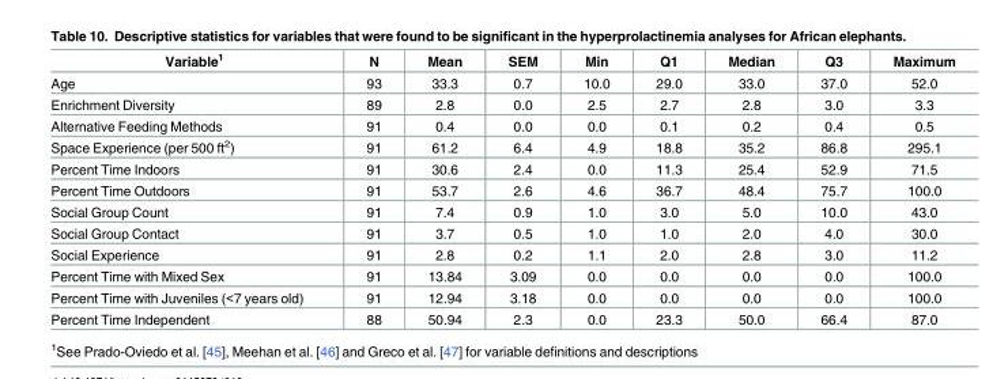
<table><thead><tr><td>Variable<sup>1</sup></td><td>N</td><td>Mean</td><td>SEM</td><td>Min</td><td>Q1</td><td>Median</td><td>Q3</td><td>Maximum</td></tr></thead><tbody><tr><td>Age</td><td>93</td><td>33.3</td><td>0.7</td><td>10.0</td><td>29.0</td><td>33.0</td><td>37.0</td><td>52.0</td></tr><tr><td>Enrichment Diversity</td><td>89</td><td>2.8</td><td>0.0</td><td>2.5</td><td>2.7</td><td>2.8</td><td>3.0</td><td>3.3</td></tr><tr><td>Alternative Feeding Methods</td><td>91</td><td>0.4</td><td>0.0</td><td>0.0</td><td>0.1</td><td>0.2</td><td>0.4</td><td>0.5</td></tr><tr><td>Space Experience (per 500 ft<sup>2</sup>)</td><td>91</td><td>61.2</td><td>6.4</td><td>4.9</td><td>18.8</td><td>35.2</td><td>86.8</td><td>295.1</td></tr><tr><td>Percent Time Indoors</td><td>91</td><td>30.6</td><td>2.4</td><td>0.0</td><td>11.3</td><td>25.4</td><td>52.9</td><td>71.5</td></tr><tr><td>Percent Time Outdoors</td><td>91</td><td>53.7</td><td>2.6</td><td>4.6</td><td>36.7</td><td>48.4</td><td>75.7</td><td>100.0</td></tr><tr><td>Social Group Count</td><td>91</td><td>7.4</td><td>0.9</td><td>1.0</td><td>3.0</td><td>5.0</td><td>10.0</td><td>43.0</td></tr><tr><td>Social Group Contact</td><td>91</td><td>3.7</td><td>0.5</td><td>1.0</td><td>1.0</td><td>2.0</td><td>4.0</td><td>30.0</td></tr><tr><td>Social Experience</td><td>91</td><td>2.8</td><td>0.2</td><td>1.1</td><td>2.0</td><td>2.8</td><td>3.0</td><td>11.2</td></tr><tr><td>Percent Time with Mixed Sex</td><td>91</td><td>13.84</td><td>3.09</td><td>0.0</td><td>0.0</td><td>0.0</td><td>0.0</td><td>100.0</td></tr><tr><td>Percent Time with Juveniles (&lt;7 years old)</td><td>91</td><td>12.94</td><td>3.18</td><td>0.0</td><td>0.0</td><td>0.0</td><td>0.0</td><td>100.0</td></tr><tr><td>Percent Time Independent</td><td>88</td><td>50.94</td><td>2.3</td><td>0.0</td><td>23.3</td><td>50.0</td><td>66.4</td><td>87.0</td></tr></tbody></table>